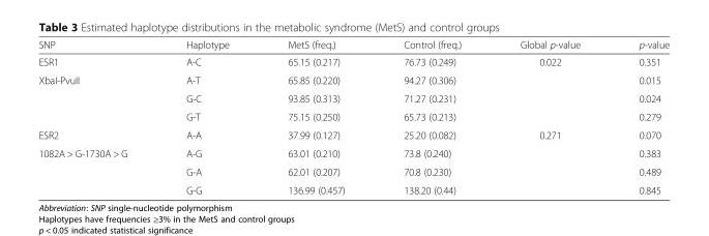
<table><thead><tr><td>SNP</td><td>Haplotype</td><td>MetS (freq.)</td><td>Control (freq.)</td><td>Global p-value</td><td>p-value</td></tr></thead><tbody><tr><td>ESR1</td><td>A-C</td><td>65.15 (0.217)</td><td>76.73 (0.249)</td><td>0.022</td><td>0.351</td></tr><tr><td rowspan="3">XbaI-PvuII</td><td>A-T</td><td>65.85 (0.220)</td><td>94.27 (0.306)</td><td></td><td>0.015</td></tr><tr><td>G-C</td><td>93.85 (0.313)</td><td>71.27 (0.231)</td><td></td><td>0.024</td></tr><tr><td>G-T</td><td>75.15 (0.250)</td><td>65.73 (0.213)</td><td></td><td>0.279</td></tr><tr><td>ESR2</td><td>A-A</td><td>37.99 (0.127)</td><td>25.20 (0.082)</td><td>0.271</td><td>0.070</td></tr><tr><td rowspan="3">1082A &gt; G-1730A &gt; G</td><td>A-G</td><td>63.01 (0.210)</td><td>73.8 (0.240)</td><td></td><td>0.383</td></tr><tr><td>G-A</td><td>62.01 (0.207)</td><td>70.8 (0.230)</td><td></td><td>0.489</td></tr><tr><td>G-G</td><td>136.99 (0.457)</td><td>138.20 (0.44)</td><td></td><td>0.845</td></tr></tbody></table>